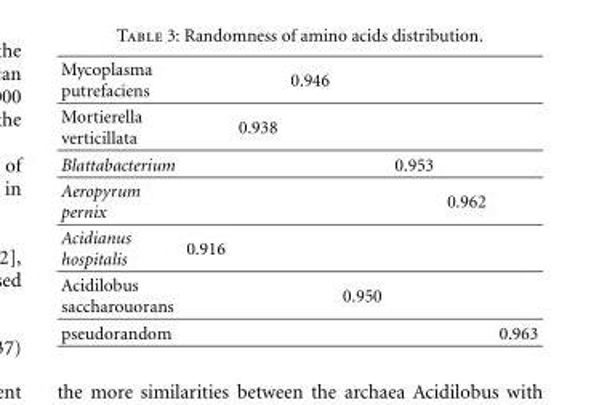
<table><tbody><tr><td>Mycoplasma putrefaciens</td><td></td><td></td><td>0.946</td><td></td><td></td><td></td><td></td></tr><tr><td>Mortierella verticillata</td><td></td><td>0.938</td><td></td><td></td><td></td><td></td><td></td></tr><tr><td>Blattabacterium</td><td></td><td></td><td></td><td></td><td>0.953</td><td></td><td></td></tr><tr><td>Aeropyrum pernix</td><td></td><td></td><td></td><td></td><td></td><td>0.962</td><td></td></tr><tr><td>Acidianus hospitalis</td><td>0.916</td><td></td><td></td><td></td><td></td><td></td><td></td></tr><tr><td>Acidilobus saccharouorans</td><td></td><td></td><td></td><td>0.950</td><td></td><td></td><td></td></tr><tr><td>pseudorandom</td><td></td><td></td><td></td><td></td><td></td><td></td><td>0.963</td></tr></tbody></table>